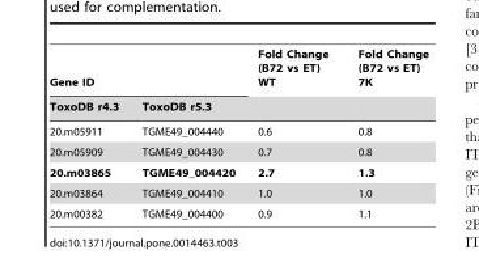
<table><thead><tr><td colspan="2">Gene ID</td><td rowspan="2">Fold Change (B72 vs ET) WT</td><td rowspan="2">Fold Change (B72 vs ET) 7K</td></tr><tr><td>ToxoDB r4.3</td><td>ToxoDB r5.3</td></tr></thead><tbody><tr><td>20.m05911</td><td>TGME49_004440</td><td>0.6</td><td>0.8</td></tr><tr><td>20.m05909</td><td>TGME49_004430</td><td>0.7</td><td>0.8</td></tr><tr><td>20.m03865</td><td>TGME49_004420</td><td>2.7</td><td>1.3</td></tr><tr><td>20.m03864</td><td>TGME49_004410</td><td>1.0</td><td>1.0</td></tr><tr><td>20.m00382</td><td>TGME49_004400</td><td>0.9</td><td>1.1</td></tr></tbody></table>